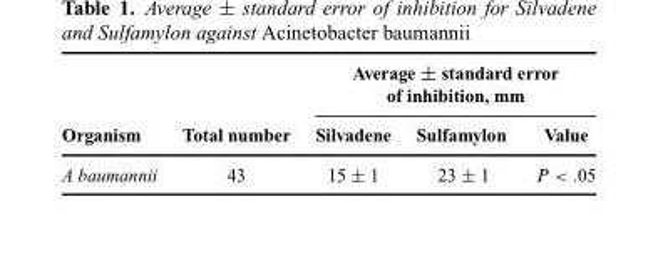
<table><thead><tr><td rowspan="2">Organism</td><td rowspan="2">Total number</td><td colspan="3">Average ± standard error of inhibition, mm</td></tr><tr><td>Silvadene</td><td>Sulfamylon</td><td>Value</td></tr></thead><tbody><tr><td>A baumannii</td><td>43</td><td>15 ± 1</td><td>23 ± 1</td><td>P &lt; .05</td></tr></tbody></table>